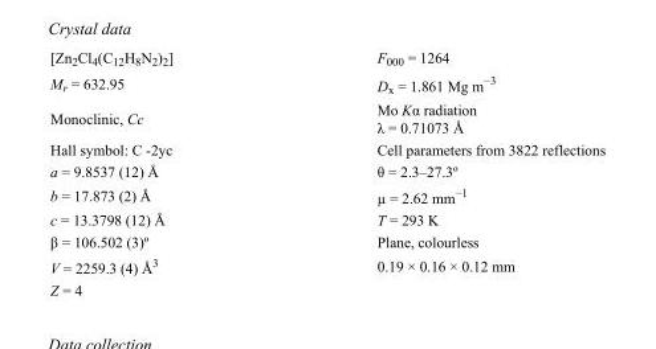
<table><tbody><tr><td>[Zn2Cl4(C12H8N2)2]</td><td>F000 = 1264</td></tr><tr><td>Mr = 632.95</td><td>Dx = 1.861 Mg m−3</td></tr><tr><td>Monoclinic, Cc</td><td>Mo Kα radiation λ = 0.71073 Å</td></tr><tr><td>Hall symbol: C -2yc</td><td>Cell parameters from 3822 reflections</td></tr><tr><td>a = 9.8537 (12) Å</td><td>θ = 2.3–27.3º</td></tr><tr><td>b = 17.873 (2) Å</td><td>µ = 2.62 mm−1</td></tr><tr><td>c = 13.3798 (12) Å</td><td>T = 293 K</td></tr><tr><td>β = 106.502 (3)º</td><td>Plane, colourless</td></tr><tr><td>V = 2259.3 (4) Å3</td><td>0.19 × 0.16 × 0.12 mm</td></tr><tr><td>Z = 4</td><td></td></tr></tbody></table>